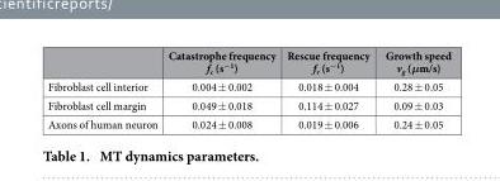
<table><thead><tr><td></td><td>Catastrophe frequency f<sub>c</sub> (s<sup>−1</sup>)</td><td>Rescue frequency f<sub>r</sub> (s<sup>−1</sup>)</td><td>Growth speed v<sub>g</sub> (μm/s)</td></tr></thead><tbody><tr><td>Fibroblast cell interior</td><td>0.004 ± 0.002</td><td>0.018 ± 0.004</td><td>0.28 ± 0.05</td></tr><tr><td>Fibroblast cell margin</td><td>0.049 ± 0.018</td><td>0.114 ± 0.027</td><td>0.09 ± 0.03</td></tr><tr><td>Axons of human neuron</td><td>0.024 ± 0.008</td><td>0.019 ± 0.006</td><td>0.24 ± 0.05</td></tr></tbody></table>